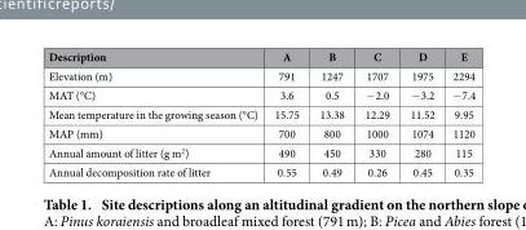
<table><thead><tr><td>Description</td><td>A</td><td>B</td><td>C</td><td>D</td><td>E</td></tr></thead><tbody><tr><td>Elevation (m)</td><td>791</td><td>1247</td><td>1707</td><td>1975</td><td>2294</td></tr><tr><td>MAT (°C)</td><td>3.6</td><td>0.5</td><td>− 2.0</td><td>− 3.2</td><td>− 7.4</td></tr><tr><td>Mean temperature in the growing season (°C)</td><td>15.75</td><td>13.38</td><td>12.29</td><td>11.52</td><td>9.95</td></tr><tr><td>MAP (mm)</td><td>700</td><td>800</td><td>1000</td><td>1074</td><td>1120</td></tr><tr><td>Annual amount of litter (g m<sup>2</sup>)</td><td>490</td><td>450</td><td>330</td><td>280</td><td>115</td></tr><tr><td>Annual decomposition rate of litter</td><td>0.55</td><td>0.49</td><td>0.26</td><td>0.45</td><td>0.35</td></tr></tbody></table>